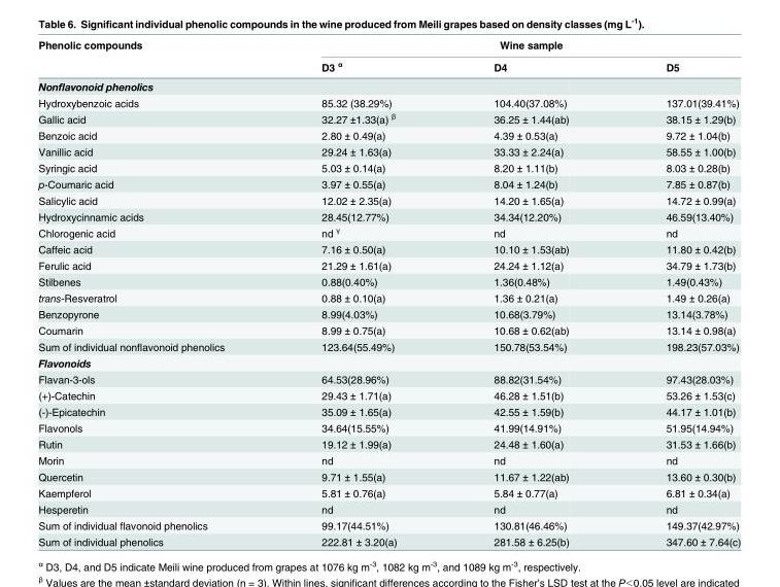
<table><thead><tr><td rowspan="2">Phenolic compounds</td><td colspan="3">Wine sample</td></tr><tr><td>D3 <sup>α</sup></td><td>D4</td><td>D5</td></tr></thead><tbody><tr><td colspan="4">Nonflavonoid phenolics</td></tr><tr><td>Hydroxybenzoic acids</td><td>85.32 (38.29%)</td><td>104.40(37.08%)</td><td>137.01(39.41%)</td></tr><tr><td>Gallic acid</td><td>32.27 ±1.33(a) <sup>β</sup></td><td>36.25 ± 1.44(ab)</td><td>38.15 ± 1.29(b)</td></tr><tr><td>Benzoic acid</td><td>2.80 ± 0.49(a)</td><td>4.39 ± 0.53(a)</td><td>9.72 ± 1.04(b)</td></tr><tr><td>Vanillic acid</td><td>29.24 ± 1.63(a)</td><td>33.33 ± 2.24(a)</td><td>58.55 ± 1.00(b)</td></tr><tr><td>Syringic acid</td><td>5.03 ± 0.14(a)</td><td>8.20 ± 1.11(b)</td><td>8.03 ± 0.28(b)</td></tr><tr><td>p-Coumaric acid</td><td>3.97 ± 0.55(a)</td><td>8.04 ± 1.24(b)</td><td>7.85 ± 0.87(b)</td></tr><tr><td>Salicylic acid</td><td>12.02 ± 2.35(a)</td><td>14.20 ± 1.65(a)</td><td>14.72 ± 0.99(a)</td></tr><tr><td>Hydroxycinnamic acids</td><td>28.45(12.77%)</td><td>34.34(12.20%)</td><td>46.59(13.40%)</td></tr><tr><td>Chlorogenic acid</td><td>nd <sup>γ</sup></td><td>nd</td><td>nd</td></tr><tr><td>Caffeic acid</td><td>7.16 ± 0.50(a)</td><td>10.10 ± 1.53(ab)</td><td>11.80 ± 0.42(b)</td></tr><tr><td>Ferulic acid</td><td>21.29 ± 1.61(a)</td><td>24.24 ± 1.12(a)</td><td>34.79 ± 1.73(b)</td></tr><tr><td>Stilbenes</td><td>0.88(0.40%)</td><td>1.36(0.48%)</td><td>1.49(0.43%)</td></tr><tr><td>trans-Resveratrol</td><td>0.88 ± 0.10(a)</td><td>1.36 ± 0.21(a)</td><td>1.49 ± 0.26(a)</td></tr><tr><td>Benzopyrone</td><td>8.99(4.03%)</td><td>10.68(3.79%)</td><td>13.14(3.78%)</td></tr><tr><td>Coumarin</td><td>8.99 ± 0.75(a)</td><td>10.68 ± 0.62(ab)</td><td>13.14 ± 0.98(a)</td></tr><tr><td>Sum of individual nonflavonoid phenolics</td><td>123.64(55.49%)</td><td>150.78(53.54%)</td><td>198.23(57.03%)</td></tr><tr><td colspan="4">Flavonoids</td></tr><tr><td>Flavan-3-ols</td><td>64.53(28.96%)</td><td>88.82(31.54%)</td><td>97.43(28.03%)</td></tr><tr><td>(+)-Catechin</td><td>29.43 ± 1.71(a)</td><td>46.28 ± 1.51(b)</td><td>53.26 ± 1.53(c)</td></tr><tr><td>(-)-Epicatechin</td><td>35.09 ± 1.65(a)</td><td>42.55 ± 1.59(b)</td><td>44.17 ± 1.01(b)</td></tr><tr><td>Flavonols</td><td>34.64(15.55%)</td><td>41.99(14.91%)</td><td>51.95(14.94%)</td></tr><tr><td>Rutin</td><td>19.12 ± 1.99(a)</td><td>24.48 ± 1.60(a)</td><td>31.53 ± 1.66(b)</td></tr><tr><td>Morin</td><td>nd</td><td>nd</td><td>nd</td></tr><tr><td>Quercetin</td><td>9.71 ± 1.55(a)</td><td>11.67 ± 1.22(ab)</td><td>13.60 ± 0.30(b)</td></tr><tr><td>Kaempferol</td><td>5.81 ± 0.76(a)</td><td>5.84 ± 0.77(a)</td><td>6.81 ± 0.34(a)</td></tr><tr><td>Hesperetin</td><td>nd</td><td>nd</td><td>nd</td></tr><tr><td>Sum of individual flavonoid phenolics</td><td>99.17(44.51%)</td><td>130.81(46.46%)</td><td>149.37(42.97%)</td></tr><tr><td>Sum of individual phenolics</td><td>222.81 ± 3.20(a)</td><td>281.58 ± 6.25(b)</td><td>347.60 ± 7.64(c)</td></tr></tbody></table>